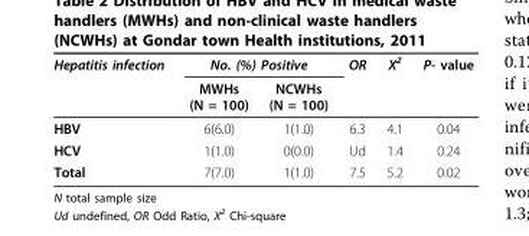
<table><thead><tr><td rowspan="2">Hepatitis infection</td><td colspan="2">No. (%) Positive</td><td rowspan="2">OR</td><td rowspan="2">X<sup>2</sup></td><td rowspan="2">P- value</td></tr><tr><td>MWHs (N = 100)</td><td>NCWHs (N = 100)</td></tr></thead><tbody><tr><td>HBV</td><td>6(6.0)</td><td>1(1.0)</td><td>6.3</td><td>4.1</td><td>0.04</td></tr><tr><td>HCV</td><td>1(1.0)</td><td>0(0.0)</td><td>Ud</td><td>1.4</td><td>0.24</td></tr><tr><td>Total</td><td>7(7.0)</td><td>1(1.0)</td><td>7.5</td><td>5.2</td><td>0.02</td></tr></tbody></table>